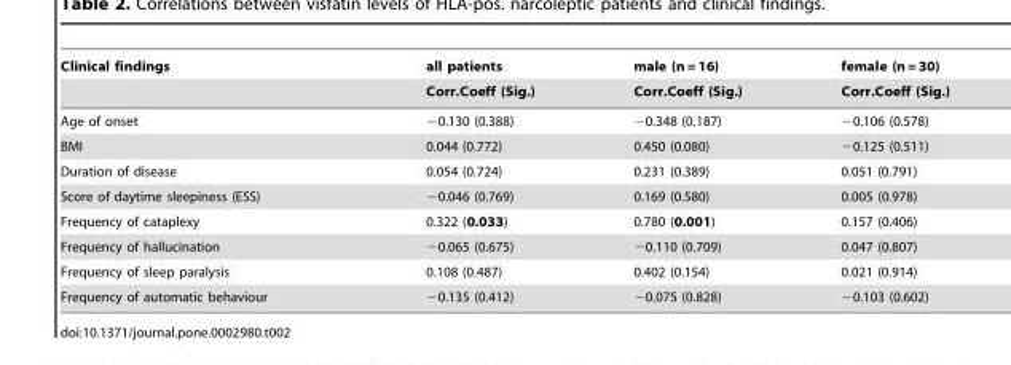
<table><thead><tr><td rowspan="2">Clinical findings</td><td rowspan="2">all patients Corr.Coeff (Sig.)</td><td rowspan="2">male (n = 16) Corr.Coeff (Sig.)</td><td rowspan="2">female (n = 30) Corr.Coeff (Sig.)</td></tr><tr></tr></thead><tbody><tr><td>Age of onset</td><td>−0.130 (0.388)</td><td>−0.348 (0.187)</td><td>−0.106 (0.578)</td></tr><tr><td>BMI</td><td>0.044 (0.772)</td><td>0.450 (0.080)</td><td>−0.125 (0.511)</td></tr><tr><td>Duration of disease</td><td>0.054 (0.724)</td><td>0.231 (0.389)</td><td>0.051 (0.791)</td></tr><tr><td>Score of daytime sleepiness (ESS)</td><td>−0.046 (0.769)</td><td>0.169 (0.580)</td><td>0.005 (0.978)</td></tr><tr><td>Frequency of cataplexy</td><td>0.322 (0.033)</td><td>0.780 (0.001)</td><td>0.157 (0.406)</td></tr><tr><td>Frequency of hallucination</td><td>−0.065 (0.675)</td><td>−0.110 (0.709)</td><td>0.047 (0.807)</td></tr><tr><td>Frequency of sleep paralysis</td><td>0.108 (0.487)</td><td>0.402 (0.154)</td><td>0.021 (0.914)</td></tr><tr><td>Frequency of automatic behaviour</td><td>−0.135 (0.412)</td><td>−0.075 (0.828)</td><td>−0.103 (0.602)</td></tr></tbody></table>